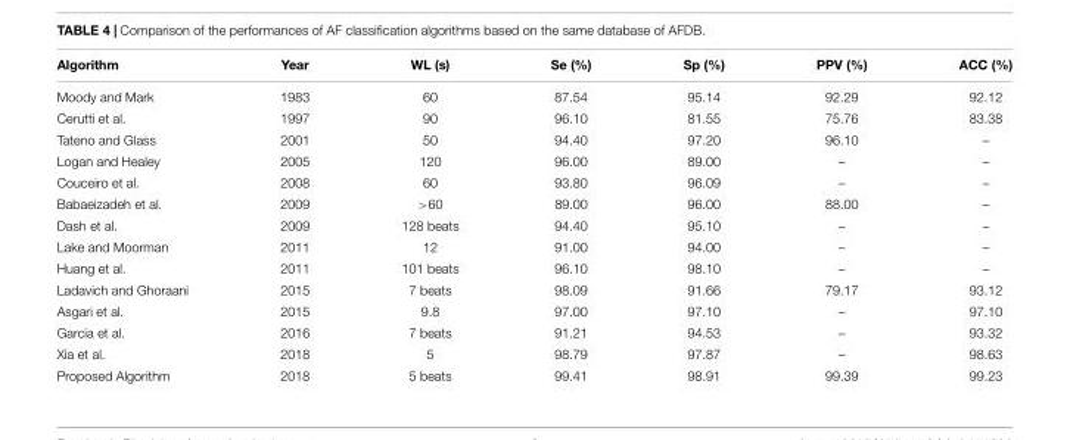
<table><thead><tr><td>Algorithm</td><td>Year</td><td>WL (s)</td><td>Se (%)</td><td>Sp (%)</td><td>PPV (%)</td><td>ACC (%)</td></tr></thead><tbody><tr><td>Moody and Mark</td><td>1983</td><td>60</td><td>87.54</td><td>95.14</td><td>92.29</td><td>92.12</td></tr><tr><td>Cerutti et al.</td><td>1997</td><td>90</td><td>96.10</td><td>81.55</td><td>75.76</td><td>83.38</td></tr><tr><td>Tateno and Glass</td><td>2001</td><td>50</td><td>94.40</td><td>97.20</td><td>96.10</td><td>–</td></tr><tr><td>Logan and Healey</td><td>2005</td><td>120</td><td>96.00</td><td>89.00</td><td>–</td><td>–</td></tr><tr><td>Couceiro et al.</td><td>2008</td><td>60</td><td>93.80</td><td>96.09</td><td>–</td><td>–</td></tr><tr><td>Babaeizadeh et al.</td><td>2009</td><td>&gt;60</td><td>89.00</td><td>96.00</td><td>88.00</td><td>–</td></tr><tr><td>Dash et al.</td><td>2009</td><td>128 beats</td><td>94.40</td><td>95.10</td><td>–</td><td>–</td></tr><tr><td>Lake and Moorman</td><td>2011</td><td>12</td><td>91.00</td><td>94.00</td><td>–</td><td>–</td></tr><tr><td>Huang et al.</td><td>2011</td><td>101 beats</td><td>96.10</td><td>98.10</td><td>–</td><td>–</td></tr><tr><td>Ladavich and Ghoraani</td><td>2015</td><td>7 beats</td><td>98.09</td><td>91.66</td><td>79.17</td><td>93.12</td></tr><tr><td>Asgari et al.</td><td>2015</td><td>9.8</td><td>97.00</td><td>97.10</td><td>–</td><td>97.10</td></tr><tr><td>Garcia et al.</td><td>2016</td><td>7 beats</td><td>91.21</td><td>94.53</td><td>–</td><td>93.32</td></tr><tr><td>Xia et al.</td><td>2018</td><td>5</td><td>98.79</td><td>97.87</td><td>–</td><td>98.63</td></tr><tr><td>Proposed Algorithm</td><td>2018</td><td>5 beats</td><td>99.41</td><td>98.91</td><td>99.39</td><td>99.23</td></tr></tbody></table>